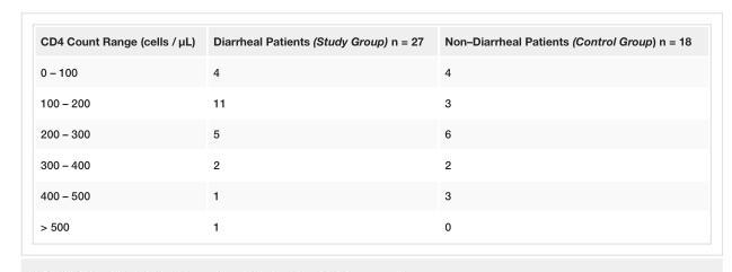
<table><tbody><tr><td>CD4 Count Range (cells / µL)</td><td>Diarrheal Patients (Study Group) n = 27</td><td>Non–Diarrheal Patients (Control Group) n = 18</td></tr><tr><td>0 – 100</td><td>4</td><td>4</td></tr><tr><td>100 – 200</td><td>11</td><td>3</td></tr><tr><td>200 – 300</td><td>5</td><td>6</td></tr><tr><td>300 – 400</td><td>2</td><td>2</td></tr><tr><td>400 – 500</td><td>1</td><td>3</td></tr><tr><td>&gt; 500</td><td>1</td><td>0</td></tr></tbody></table>